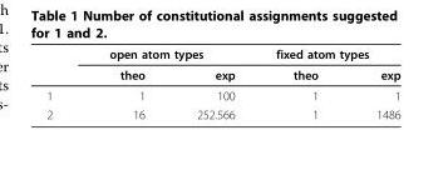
<table><thead><tr><td rowspan="2"></td><td colspan="2">open atom types</td><td colspan="2">fixed atom types</td></tr><tr><td>theo</td><td>exp</td><td>theo</td><td>exp</td></tr></thead><tbody><tr><td>1</td><td>1</td><td>100</td><td>1</td><td>1</td></tr><tr><td>2</td><td>16</td><td>252.566</td><td>1</td><td>1486</td></tr></tbody></table>